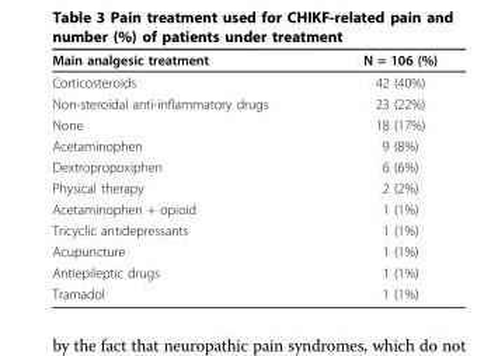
<table><thead><tr><td>Main analgesic treatment</td><td>N = 106 (%)</td></tr></thead><tbody><tr><td>Corticosteroids</td><td>42 (40%)</td></tr><tr><td>Non-steroidal anti-inflammatory drugs</td><td>23 (22%)</td></tr><tr><td>None</td><td>18 (17%)</td></tr><tr><td>Acetaminophen</td><td>9 (8%)</td></tr><tr><td>Dextropropoxiphen</td><td>6 (6%)</td></tr><tr><td>Physical therapy</td><td>2 (2%)</td></tr><tr><td>Acetaminophen + opioid</td><td>1 (1%)</td></tr><tr><td>Tricyclic antidepressants</td><td>1 (1%)</td></tr><tr><td>Acupuncture</td><td>1 (1%)</td></tr><tr><td>Antiepileptic drugs</td><td>1 (1%)</td></tr><tr><td>Tramadol</td><td>1 (1%)</td></tr></tbody></table>